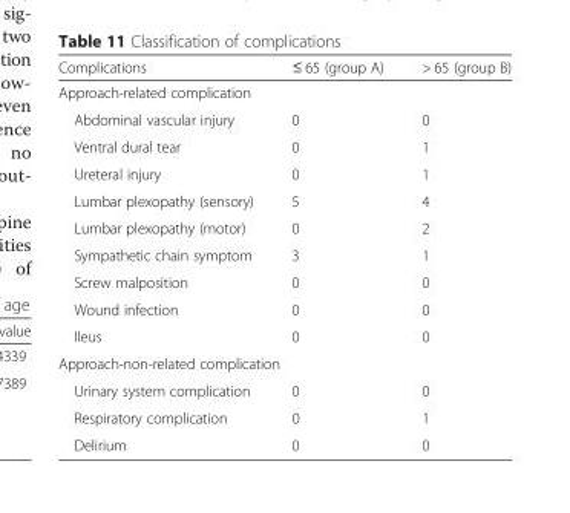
<table><thead><tr><td>Complications</td><td>≤ 65 (group A)</td><td>&gt; 65 (group B)</td></tr></thead><tbody><tr><td colspan="3">Approach-related complication</td></tr><tr><td>Abdominal vascular injury</td><td>0</td><td>0</td></tr><tr><td>Ventral dural tear</td><td>0</td><td>1</td></tr><tr><td>Ureteral injury</td><td>0</td><td>1</td></tr><tr><td>Lumbar plexopathy (sensory)</td><td>5</td><td>4</td></tr><tr><td>Lumbar plexopathy (motor)</td><td>0</td><td>2</td></tr><tr><td>Sympathetic chain symptom</td><td>3</td><td>1</td></tr><tr><td>Screw malposition</td><td>0</td><td>0</td></tr><tr><td>Wound infection</td><td>0</td><td>0</td></tr><tr><td>Ileus</td><td>0</td><td>0</td></tr><tr><td colspan="3">Approach-non-related complication</td></tr><tr><td>Urinary system complication</td><td>0</td><td>0</td></tr><tr><td>Respiratory complication</td><td>0</td><td>1</td></tr><tr><td>Delirium</td><td>0</td><td>0</td></tr></tbody></table>